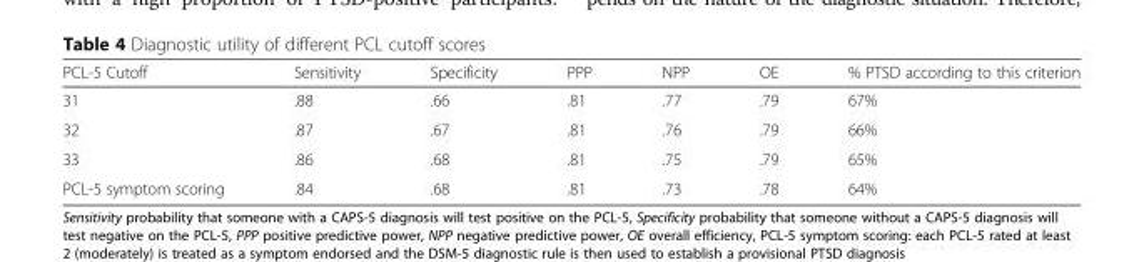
<table><thead><tr><td>PCL-5 Cutoff</td><td>Sensitivity</td><td>Specificity</td><td>PPP</td><td>NPP</td><td>OE</td><td>% PTSD according to this criterion</td></tr></thead><tbody><tr><td>31</td><td>.88</td><td>.66</td><td>.81</td><td>.77</td><td>.79</td><td>67%</td></tr><tr><td>32</td><td>.87</td><td>.67</td><td>.81</td><td>.76</td><td>.79</td><td>66%</td></tr><tr><td>33</td><td>.86</td><td>.68</td><td>.81</td><td>.75</td><td>.79</td><td>65%</td></tr><tr><td>PCL-5 symptom scoring</td><td>.84</td><td>.68</td><td>.81</td><td>.73</td><td>.78</td><td>64%</td></tr></tbody></table>